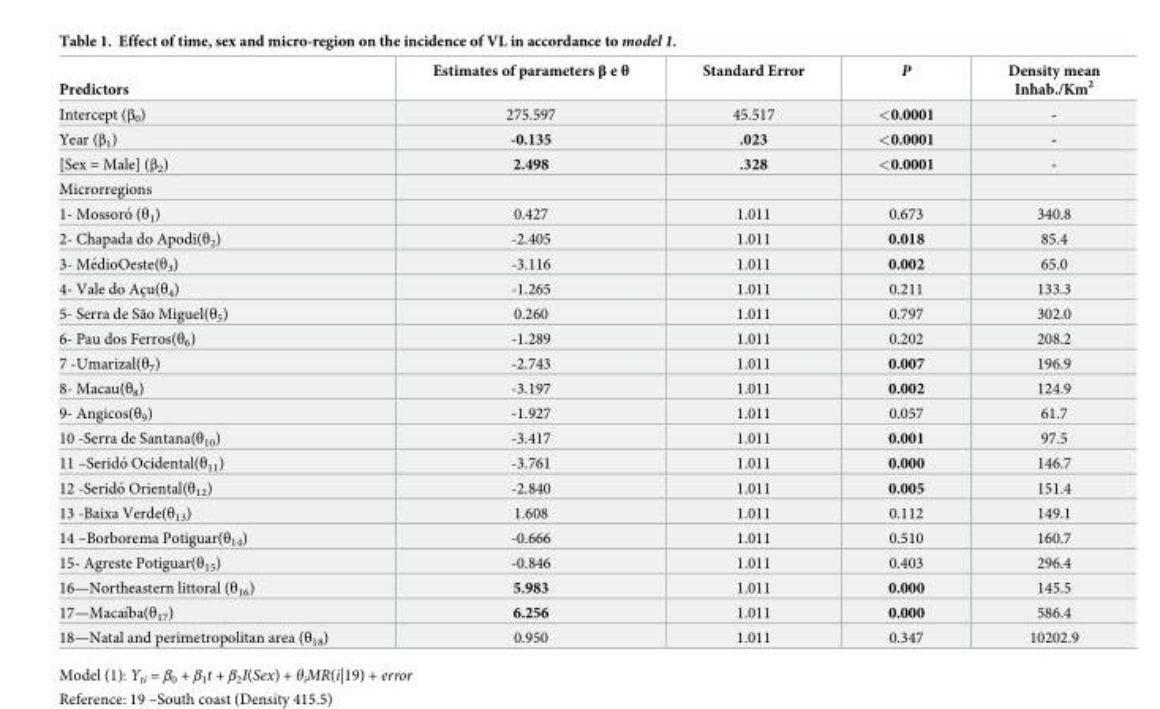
<table><thead><tr><td>Predictors</td><td>Estimates of parameters β e θ</td><td>Standard Error</td><td>P</td><td>Density mean Inhab./Km<sup>2</sup></td></tr></thead><tbody><tr><td>Intercept (β<sub>0</sub>)</td><td>275.597</td><td>45.517</td><td>&lt;0.0001</td><td>-</td></tr><tr><td>Year (β<sub>1</sub>)</td><td>-0.135</td><td>.023</td><td>&lt;0.0001</td><td>-</td></tr><tr><td>[Sex = Male] (β<sub>2</sub>)</td><td>2.498</td><td>.328</td><td>&lt;0.0001</td><td>-</td></tr><tr><td colspan="5">Microrregions</td></tr><tr><td>1- Mossoro´ (θ1)</td><td>0.427</td><td>1.011</td><td>0.673</td><td>340.8</td></tr><tr><td>2- Chapada do Apodi(θ<sub>2</sub>)</td><td>-2.405</td><td>1.011</td><td>0.018</td><td>85.4</td></tr><tr><td>3- Me´dioOeste(θ3)</td><td>-3.116</td><td>1.011</td><td>0.002</td><td>65.0</td></tr><tr><td>4- Vale do Ac¸u(θ4)</td><td>-1.265</td><td>1.011</td><td>0.211</td><td>133.3</td></tr><tr><td>5- Serra de São Miguel(θ<sub>5</sub>)</td><td>0.260</td><td>1.011</td><td>0.797</td><td>302.0</td></tr><tr><td>6- Pau dos Ferros(θ<sub>6</sub>)</td><td>-1.289</td><td>1.011</td><td>0.202</td><td>208.2</td></tr><tr><td>7 -Umarizal(θ<sub>7</sub>)</td><td>-2.743</td><td>1.011</td><td>0.007</td><td>196.9</td></tr><tr><td>8- Macau(θ<sub>8</sub>)</td><td>-3.197</td><td>1.011</td><td>0.002</td><td>124.9</td></tr><tr><td>9- Angicos(θ<sub>9</sub>)</td><td>-1.927</td><td>1.011</td><td>0.057</td><td>61.7</td></tr><tr><td>10 -Serra de Santana(θ<sub>10</sub>)</td><td>-3.417</td><td>1.011</td><td>0.001</td><td>97.5</td></tr><tr><td>11 –Serido´ Ocidental(θ11)</td><td>-3.761</td><td>1.011</td><td>0.000</td><td>146.7</td></tr><tr><td>12 -Serido´ Oriental(θ12)</td><td>-2.840</td><td>1.011</td><td>0.005</td><td>151.4</td></tr><tr><td>13 -Baixa Verde(θ<sub>13</sub>)</td><td>1.608</td><td>1.011</td><td>0.112</td><td>149.1</td></tr><tr><td>14 –Borborema Potiguar(θ<sub>14</sub>)</td><td>-0.666</td><td>1.011</td><td>0.510</td><td>160.7</td></tr><tr><td>15- Agreste Potiguar(θ<sub>15</sub>)</td><td>-0.846</td><td>1.011</td><td>0.403</td><td>296.4</td></tr><tr><td>16—Northeastern littoral (θ<sub>16</sub>)</td><td>5.983</td><td>1.011</td><td>0.000</td><td>145.5</td></tr><tr><td>17—Macaı´ba(θ17)</td><td>6.256</td><td>1.011</td><td>0.000</td><td>586.4</td></tr><tr><td>18—Natal and perimetropolitan area (θ<sub>18</sub>)</td><td>0.950</td><td>1.011</td><td>0.347</td><td>10202.9</td></tr></tbody></table>